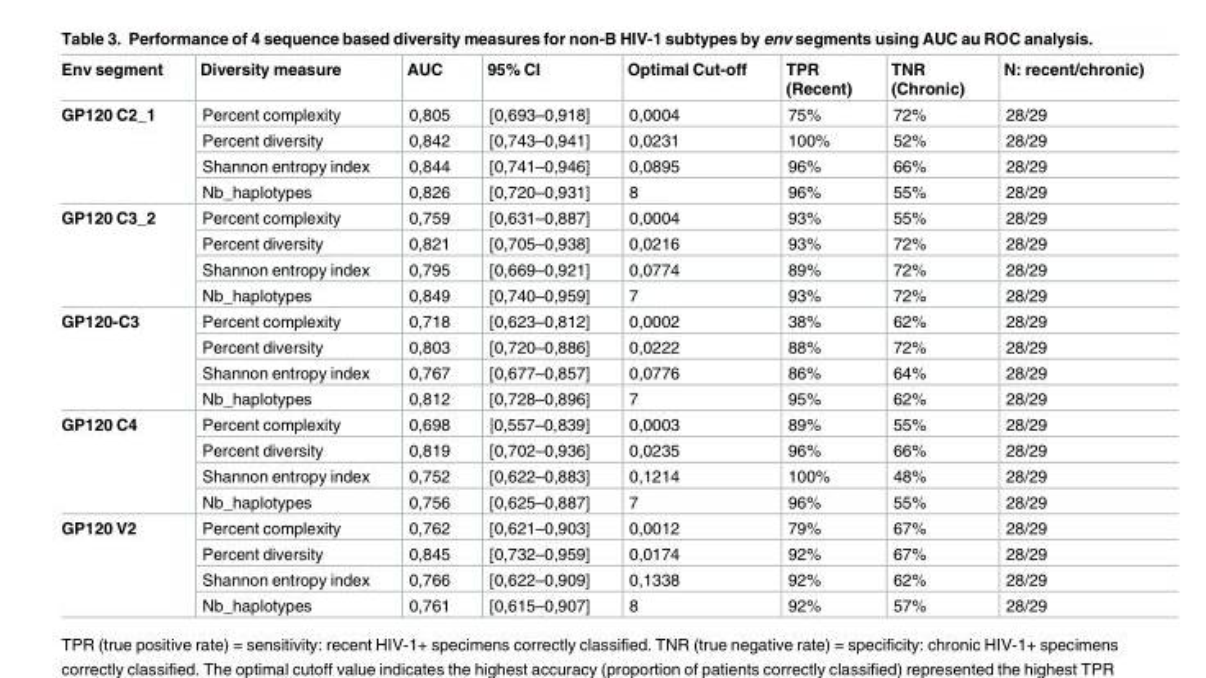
<table><thead><tr><td>Env segment</td><td>Diversity measure</td><td>AUC</td><td>95% CI</td><td>Optimal Cut-off</td><td>TPR (Recent)</td><td>TNR (Chronic)</td><td>N: recent/chronic)</td></tr></thead><tbody><tr><td rowspan="4">GP120 C2_1</td><td>Percent complexity</td><td>0,805</td><td>[0,693–0,918]</td><td>0,0004</td><td>75%</td><td>72%</td><td>28/29</td></tr><tr><td>Percent diversity</td><td>0,842</td><td>[0,743–0,941]</td><td>0,0231</td><td>100%</td><td>52%</td><td>28/29</td></tr><tr><td>Shannon entropy index</td><td>0,844</td><td>[0,741–0,946]</td><td>0,0895</td><td>96%</td><td>66%</td><td>28/29</td></tr><tr><td>Nb_haplotypes</td><td>0,826</td><td>[0,720–0,931]</td><td>8</td><td>96%</td><td>55%</td><td>28/29</td></tr><tr><td rowspan="4">GP120 C3_2</td><td>Percent complexity</td><td>0,759</td><td>[0,631–0,887]</td><td>0,0004</td><td>93%</td><td>55%</td><td>28/29</td></tr><tr><td>Percent diversity</td><td>0,821</td><td>[0,705–0,938]</td><td>0,0216</td><td>93%</td><td>72%</td><td>28/29</td></tr><tr><td>Shannon entropy index</td><td>0,795</td><td>[0,669–0,921]</td><td>0,0774</td><td>89%</td><td>72%</td><td>28/29</td></tr><tr><td>Nb_haplotypes</td><td>0,849</td><td>[0,740–0,959]</td><td>7</td><td>93%</td><td>72%</td><td>28/29</td></tr><tr><td rowspan="4">GP120-C3</td><td>Percent complexity</td><td>0,718</td><td>[0,623–0,812]</td><td>0,0002</td><td>38%</td><td>62%</td><td>28/29</td></tr><tr><td>Percent diversity</td><td>0,803</td><td>[0,720–0,886]</td><td>0,0222</td><td>88%</td><td>72%</td><td>28/29</td></tr><tr><td>Shannon entropy index</td><td>0,767</td><td>[0,677–0,857]</td><td>0,0776</td><td>86%</td><td>64%</td><td>28/29</td></tr><tr><td>Nb_haplotypes</td><td>0,812</td><td>[0,728–0,896]</td><td>7</td><td>95%</td><td>62%</td><td>28/29</td></tr><tr><td rowspan="4">GP120 C4</td><td>Percent complexity</td><td>0,698</td><td>|0,557–0,839]</td><td>0,0003</td><td>89%</td><td>55%</td><td>28/29</td></tr><tr><td>Percent diversity</td><td>0,819</td><td>[0,702–0,936]</td><td>0,0235</td><td>96%</td><td>66%</td><td>28/29</td></tr><tr><td>Shannon entropy index</td><td>0,752</td><td>[0,622–0,883]</td><td>0,1214</td><td>100%</td><td>48%</td><td>28/29</td></tr><tr><td>Nb_haplotypes</td><td>0,756</td><td>[0,625–0,887]</td><td>7</td><td>96%</td><td>55%</td><td>28/29</td></tr><tr><td rowspan="4">GP120 V2</td><td>Percent complexity</td><td>0,762</td><td>[0,621–0,903]</td><td>0,0012</td><td>79%</td><td>67%</td><td>28/29</td></tr><tr><td>Percent diversity</td><td>0,845</td><td>[0,732–0,959]</td><td>0,0174</td><td>92%</td><td>67%</td><td>28/29</td></tr><tr><td>Shannon entropy index</td><td>0,766</td><td>[0,622–0,909]</td><td>0,1338</td><td>92%</td><td>62%</td><td>28/29</td></tr><tr><td>Nb_haplotypes</td><td>0,761</td><td>[0,615–0,907]</td><td>8</td><td>92%</td><td>57%</td><td>28/29</td></tr></tbody></table>